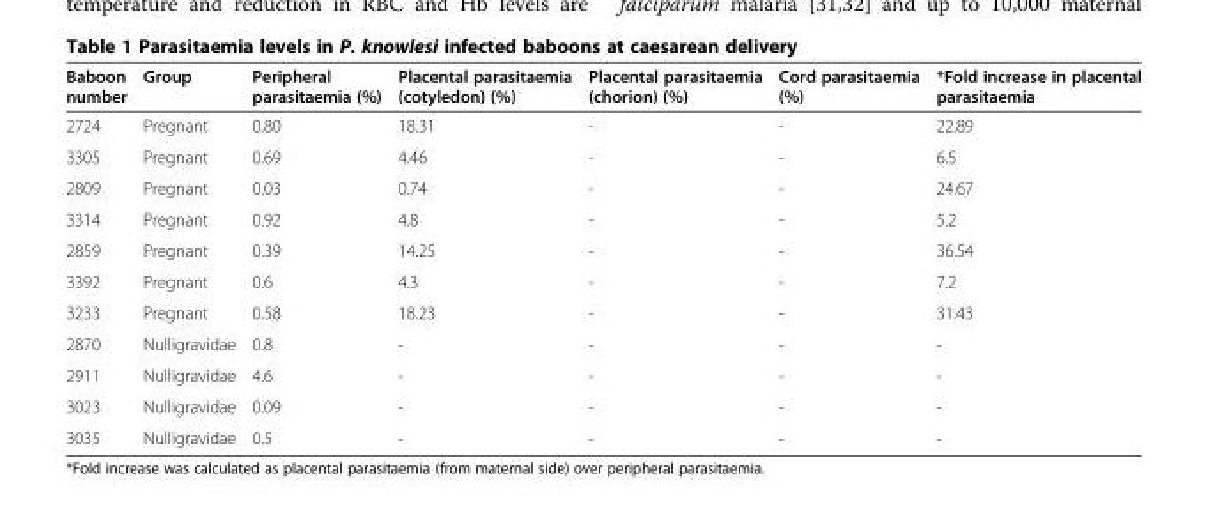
<table><thead><tr><td>Baboon number</td><td>Group</td><td>Peripheral parasitaemia (%)</td><td>Placental parasitaemia (cotyledon) (%)</td><td>Placental parasitaemia (chorion) (%)</td><td>Cord parasitaemia (%)</td><td>*Fold increase in placental parasitaemia</td></tr></thead><tbody><tr><td>2724</td><td>Pregnant</td><td>0.80</td><td>18.31</td><td>-</td><td>-</td><td>22.89</td></tr><tr><td>3305</td><td>Pregnant</td><td>0.69</td><td>4.46</td><td>-</td><td>-</td><td>6.5</td></tr><tr><td>2809</td><td>Pregnant</td><td>0.03</td><td>0.74</td><td>-</td><td>-</td><td>24.67</td></tr><tr><td>3314</td><td>Pregnant</td><td>0.92</td><td>4.8</td><td>-</td><td>-</td><td>5.2</td></tr><tr><td>2859</td><td>Pregnant</td><td>0.39</td><td>14.25</td><td>-</td><td>-</td><td>36.54</td></tr><tr><td>3392</td><td>Pregnant</td><td>0.6</td><td>4.3</td><td>-</td><td>-</td><td>7.2</td></tr><tr><td>3233</td><td>Pregnant</td><td>0.58</td><td>18.23</td><td>-</td><td>-</td><td>31.43</td></tr><tr><td>2870</td><td>Nulligravidae</td><td>0.8</td><td>-</td><td>-</td><td>-</td><td>-</td></tr><tr><td>2911</td><td>Nulligravidae</td><td>4.6</td><td>-</td><td>-</td><td>-</td><td>-</td></tr><tr><td>3023</td><td>Nulligravidae</td><td>0.09</td><td>-</td><td>-</td><td>-</td><td>-</td></tr><tr><td>3035</td><td>Nulligravidae</td><td>0.5</td><td>-</td><td>-</td><td>-</td><td>-</td></tr></tbody></table>